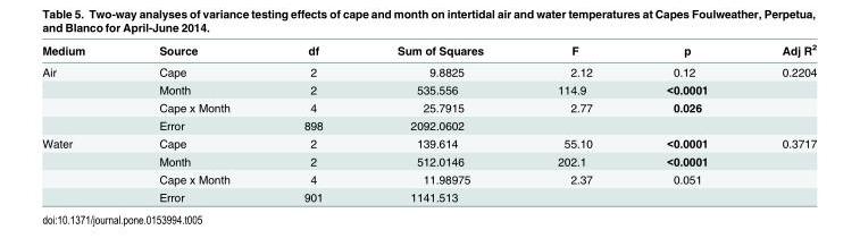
<table><thead><tr><td>Medium</td><td>Source</td><td>df</td><td>Sum of Squares</td><td>F</td><td>p</td><td>Adj R<sup>2</sup></td></tr></thead><tbody><tr><td rowspan="4">Air</td><td>Cape</td><td>2</td><td>9.8825</td><td>2.12</td><td>0.12</td><td>0.2204</td></tr><tr><td>Month</td><td>2</td><td>535.556</td><td>114.9</td><td>&lt;0.0001</td><td></td></tr><tr><td>Cape x Month</td><td>4</td><td>25.7915</td><td>2.77</td><td>0.026</td><td></td></tr><tr><td>Error</td><td>898</td><td>2092.0602</td><td></td><td></td><td></td></tr><tr><td rowspan="4">Water</td><td>Cape</td><td>2</td><td>139.614</td><td>55.10</td><td>&lt;0.0001</td><td>0.3717</td></tr><tr><td>Month</td><td>2</td><td>512.0146</td><td>202.1</td><td>&lt;0.0001</td><td></td></tr><tr><td>Cape x Month</td><td>4</td><td>11.98975</td><td>2.37</td><td>0.051</td><td></td></tr><tr><td>Error</td><td>901</td><td>1141.513</td><td></td><td></td><td></td></tr></tbody></table>